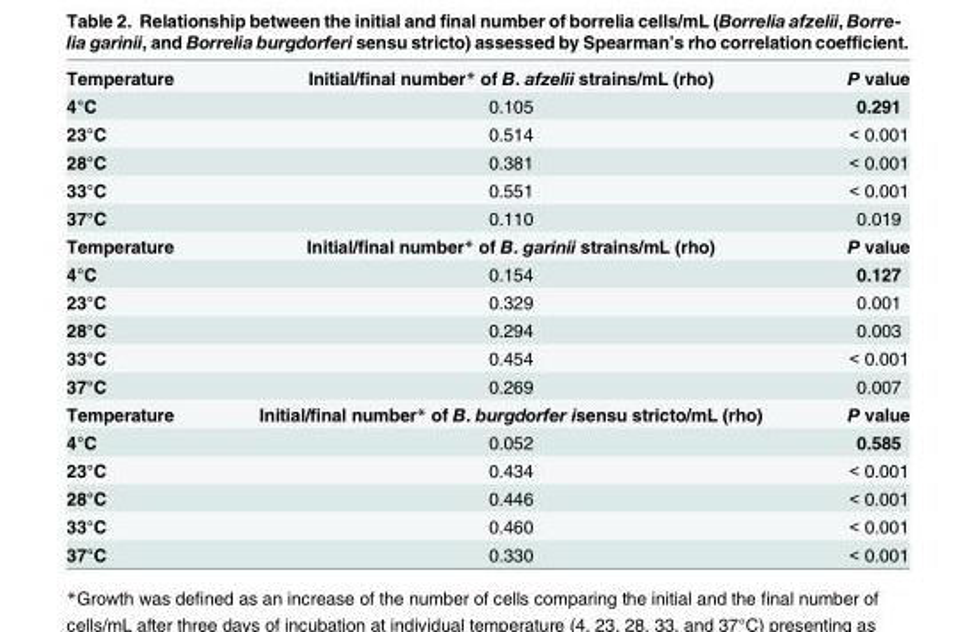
<table><tbody><tr><td>Temperature</td><td>Initial/final number* of B. afzelii strains/mL (rho)</td><td>P value</td></tr><tr><td>4°C</td><td>0.105</td><td>0.291</td></tr><tr><td>23°C</td><td>0.514</td><td>&lt; 0.001</td></tr><tr><td>28°C</td><td>0.381</td><td>&lt; 0.001</td></tr><tr><td>33°C</td><td>0.551</td><td>&lt; 0.001</td></tr><tr><td>37°C</td><td>0.110</td><td>0.019</td></tr><tr><td>Temperature</td><td>Initial/final number* of B. garinii strains/mL (rho)</td><td>P value</td></tr><tr><td>4°C</td><td>0.154</td><td>0.127</td></tr><tr><td>23°C</td><td>0.329</td><td>0.001</td></tr><tr><td>28°C</td><td>0.294</td><td>0.003</td></tr><tr><td>33°C</td><td>0.454</td><td>&lt; 0.001</td></tr><tr><td>37°C</td><td>0.269</td><td>0.007</td></tr><tr><td>Temperature</td><td>Initial/final number* of B. burgdorfer isensu stricto/mL (rho)</td><td>P value</td></tr><tr><td>4°C</td><td>0.052</td><td>0.585</td></tr><tr><td>23°C</td><td>0.434</td><td>&lt; 0.001</td></tr><tr><td>28°C</td><td>0.446</td><td>&lt; 0.001</td></tr><tr><td>33°C</td><td>0.460</td><td>&lt; 0.001</td></tr><tr><td>37°C</td><td>0.330</td><td>&lt; 0.001</td></tr></tbody></table>